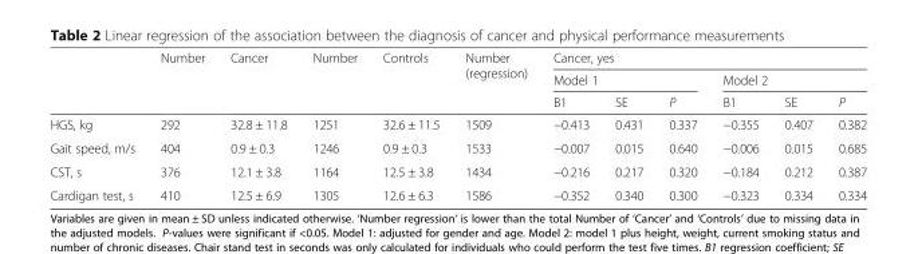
<table><thead><tr><td rowspan="3"></td><td rowspan="3">Number</td><td rowspan="3">Cancer</td><td rowspan="3">Number</td><td rowspan="3">Controls</td><td rowspan="3">Number (regression)</td><td colspan="6">Cancer, yes</td></tr><tr><td colspan="3">Model 1</td><td colspan="3">Model 2</td></tr><tr><td>B1</td><td>SE</td><td>P</td><td>B1</td><td>SE</td><td>P</td></tr></thead><tbody><tr><td>HGS, kg</td><td>292</td><td>32.8 ± 11.8</td><td>1251</td><td>32.6 ± 11.5</td><td>1509</td><td>−0.413</td><td>0.431</td><td>0.337</td><td>−0.355</td><td>0.407</td><td>0.382</td></tr><tr><td>Gait speed, m/s</td><td>404</td><td>0.9 ± 0.3</td><td>1246</td><td>0.9 ± 0.3</td><td>1533</td><td>−0.007</td><td>0.015</td><td>0.640</td><td>−0.006</td><td>0.015</td><td>0.685</td></tr><tr><td>CST, s</td><td>376</td><td>12.1 ± 3.8</td><td>1164</td><td>12.5 ± 3.8</td><td>1434</td><td>−0.216</td><td>0.217</td><td>0.320</td><td>−0.184</td><td>0.212</td><td>0.387</td></tr><tr><td>Cardigan test, s</td><td>410</td><td>12.5 ± 6.9</td><td>1305</td><td>12.6 ± 6.3</td><td>1586</td><td>−0.352</td><td>0.340</td><td>0.300</td><td>−0.323</td><td>0.334</td><td>0.334</td></tr></tbody></table>